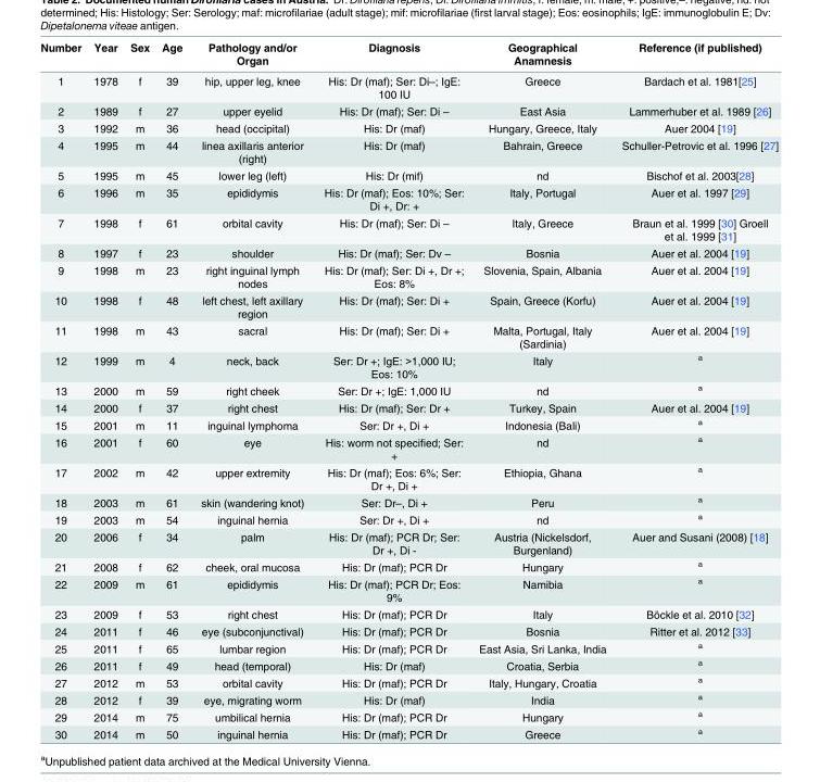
<table><thead><tr><td>Number</td><td>Year</td><td>Sex</td><td>Age</td><td>Pathology and/or Organ</td><td>Diagnosis</td><td>Geographical Anamnesis</td><td>Reference (if published)</td></tr></thead><tbody><tr><td>1</td><td>1978</td><td>f</td><td>39</td><td>hip, upper leg, knee</td><td>His: Dr (maf); Ser: Di–; IgE: 100 IU</td><td>Greece</td><td>Bardach et al. 1981[25]</td></tr><tr><td>2</td><td>1989</td><td>f</td><td>27</td><td>upper eyelid</td><td>His: Dr (maf); Ser: Di –</td><td>East Asia</td><td>Lammerhuber et al. 1989 [26]</td></tr><tr><td>3</td><td>1992</td><td>m</td><td>36</td><td>head (occipital)</td><td>His: Dr (maf)</td><td>Hungary, Greece, Italy</td><td>Auer 2004 [19]</td></tr><tr><td>4</td><td>1995</td><td>m</td><td>44</td><td>linea axillaris anterior (right)</td><td>His: Dr (maf)</td><td>Bahrain, Greece</td><td>Schuller-Petrovic et al. 1996 [27]</td></tr><tr><td>5</td><td>1995</td><td>m</td><td>45</td><td>lower leg (left)</td><td>His: Dr (mif)</td><td>nd</td><td>Bischof et al. 2003[28]</td></tr><tr><td>6</td><td>1996</td><td>m</td><td>35</td><td>epididymis</td><td>His: Dr (maf); Eos: 10%; Ser: Di +, Dr: +</td><td>Italy, Portugal</td><td>Auer et al. 1997 [29]</td></tr><tr><td>7</td><td>1998</td><td>f</td><td>61</td><td>orbital cavity</td><td>His: Dr (maf); Ser: Di –</td><td>Italy, Greece</td><td>Braun et al. 1999 [30] Groell et al. 1999 [31]</td></tr><tr><td>8</td><td>1997</td><td>f</td><td>23</td><td>shoulder</td><td>His: Dr (maf); Ser: Dv –</td><td>Bosnia</td><td>Auer et al. 2004 [19]</td></tr><tr><td>9</td><td>1998</td><td>m</td><td>23</td><td>right inguinal lymph nodes</td><td>His: Dr (maf); Ser: Di +, Dr +; Eos: 8%</td><td>Slovenia, Spain, Albania</td><td>Auer et al. 2004 [19]</td></tr><tr><td>10</td><td>1998</td><td>f</td><td>48</td><td>left chest, left axillary region</td><td>His: Dr (maf); Ser: Di +</td><td>Spain, Greece (Korfu)</td><td>Auer et al. 2004 [19]</td></tr><tr><td>11</td><td>1998</td><td>m</td><td>43</td><td>sacral</td><td>His: Dr (maf); Ser: Di +</td><td>Malta, Portugal, Italy (Sardinia)</td><td>Auer et al. 2004 [19]</td></tr><tr><td>12</td><td>1999</td><td>m</td><td>4</td><td>neck, back</td><td>Ser: Dr +; IgE: &gt;1,000 IU; Eos: 10%</td><td>Italy</td><td><sup>a</sup></td></tr><tr><td>13</td><td>2000</td><td>m</td><td>59</td><td>right cheek</td><td>Ser: Dr +; IgE: 1,000 IU</td><td>nd</td><td><sup>a</sup></td></tr><tr><td>14</td><td>2000</td><td>f</td><td>37</td><td>right chest</td><td>His: Dr (maf); Ser: Dr +</td><td>Turkey, Spain</td><td>Auer et al. 2004 [19]</td></tr><tr><td>15</td><td>2001</td><td>m</td><td>11</td><td>inguinal lymphoma</td><td>Ser: Dr +, Di +</td><td>Indonesia (Bali)</td><td><sup>a</sup></td></tr><tr><td>16</td><td>2001</td><td>f</td><td>60</td><td>eye</td><td>His: worm not specified; Ser: +</td><td>nd</td><td><sup>a</sup></td></tr><tr><td>17</td><td>2002</td><td>m</td><td>42</td><td>upper extremity</td><td>His: Dr (maf); Eos: 6%; Ser: Dr +, Di +</td><td>Ethiopia, Ghana</td><td><sup>a</sup></td></tr><tr><td>18</td><td>2003</td><td>m</td><td>61</td><td>skin (wandering knot)</td><td>Ser: Dr–, Di +</td><td>Peru</td><td><sup>a</sup></td></tr><tr><td>19</td><td>2003</td><td>m</td><td>54</td><td>inguinal hernia</td><td>Ser: Dr +, Di +</td><td>nd</td><td><sup>a</sup></td></tr><tr><td>20</td><td>2006</td><td>f</td><td>34</td><td>palm</td><td>His: Dr (maf); PCR Dr; Ser: Dr +, Di -</td><td>Austria (Nickelsdorf, Burgenland)</td><td>Auer and Susani (2008) [18]</td></tr><tr><td>21</td><td>2008</td><td>f</td><td>62</td><td>cheek, oral mucosa</td><td>His: Dr (maf); PCR Dr</td><td>Hungary</td><td><sup>a</sup></td></tr><tr><td>22</td><td>2009</td><td>m</td><td>61</td><td>epididymis</td><td>His: Dr (maf); PCR Dr; Eos: 9%</td><td>Namibia</td><td><sup>a</sup></td></tr><tr><td>23</td><td>2009</td><td>f</td><td>53</td><td>right chest</td><td>His: Dr (maf); PCR Dr</td><td>Italy</td><td>Böckle et al. 2010 [32]</td></tr><tr><td>24</td><td>2011</td><td>f</td><td>46</td><td>eye (subconjunctival)</td><td>His: Dr (maf); PCR Dr</td><td>Bosnia</td><td>Ritter et al. 2012 [33]</td></tr><tr><td>25</td><td>2011</td><td>f</td><td>65</td><td>lumbar region</td><td>His: Dr (maf); PCR Dr</td><td>East Asia, Sri Lanka, India</td><td><sup>a</sup></td></tr><tr><td>26</td><td>2011</td><td>f</td><td>49</td><td>head (temporal)</td><td>His: Dr (maf)</td><td>Croatia, Serbia</td><td><sup>a</sup></td></tr><tr><td>27</td><td>2012</td><td>m</td><td>53</td><td>orbital cavity</td><td>His: Dr (maf); PCR Dr</td><td>Italy, Hungary, Croatia</td><td><sup>a</sup></td></tr><tr><td>28</td><td>2012</td><td>f</td><td>39</td><td>eye, migrating worm</td><td>His: Dr (maf)</td><td>India</td><td><sup>a</sup></td></tr><tr><td>29</td><td>2014</td><td>m</td><td>75</td><td>umbilical hernia</td><td>His: Dr (maf); PCR Dr</td><td>Hungary</td><td><sup>a</sup></td></tr><tr><td>30</td><td>2014</td><td>m</td><td>50</td><td>inguinal hernia</td><td>His: Dr (maf); PCR Dr</td><td>Greece</td><td><sup>a</sup></td></tr></tbody></table>